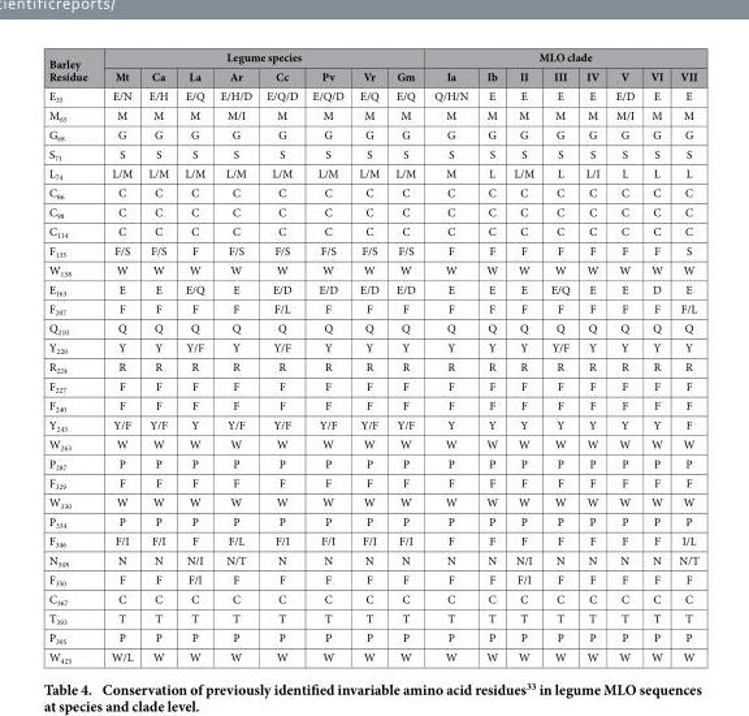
<table><thead><tr><td rowspan="2">Barley Residue</td><td colspan="8">Legume species</td><td colspan="8">MLO clade</td></tr><tr><td>Mt</td><td>Ca</td><td>La</td><td>Ar</td><td>Cc</td><td>Pv</td><td>Vr</td><td>Gm</td><td>Ia</td><td>Ib</td><td>II</td><td>III</td><td>IV</td><td>V</td><td>VI</td><td>VII</td></tr></thead><tbody><tr><td>E<sub>35</sub></td><td>E/N</td><td>E/H</td><td>E/Q</td><td>E/H/D</td><td>E/Q/D</td><td>E/Q/D</td><td>E/Q</td><td>E/Q</td><td>Q/H/N</td><td>E</td><td>E</td><td>E</td><td>E</td><td>E/D</td><td>E</td><td>E</td></tr><tr><td>M<sub>65</sub></td><td>M</td><td>M</td><td>M</td><td>M/I</td><td>M</td><td>M</td><td>M</td><td>M</td><td>M</td><td>M</td><td>M</td><td>M</td><td>M</td><td>M/I</td><td>M</td><td>M</td></tr><tr><td>G<sub>68</sub></td><td>G</td><td>G</td><td>G</td><td>G</td><td>G</td><td>G</td><td>G</td><td>G</td><td>G</td><td>G</td><td>G</td><td>G</td><td>G</td><td>G</td><td>G</td><td>G</td></tr><tr><td>S<sub>71</sub></td><td>S</td><td>S</td><td>S</td><td>S</td><td>S</td><td>S</td><td>S</td><td>S</td><td>S</td><td>S</td><td>S</td><td>S</td><td>S</td><td>S</td><td>S</td><td>S</td></tr><tr><td>L<sub>74</sub></td><td>L/M</td><td>L/M</td><td>L/M</td><td>L/M</td><td>L/M</td><td>L/M</td><td>L/M</td><td>L/M</td><td>M</td><td>L</td><td>L/M</td><td>L</td><td>L/I</td><td>L</td><td>L</td><td>L</td></tr><tr><td>C<sub>86</sub></td><td>C</td><td>C</td><td>C</td><td>C</td><td>C</td><td>C</td><td>C</td><td>C</td><td>C</td><td>C</td><td>C</td><td>C</td><td>C</td><td>C</td><td>C</td><td>C</td></tr><tr><td>C<sub>98</sub></td><td>C</td><td>C</td><td>C</td><td>C</td><td>C</td><td>C</td><td>C</td><td>C</td><td>C</td><td>C</td><td>C</td><td>C</td><td>C</td><td>C</td><td>C</td><td>C</td></tr><tr><td>C<sub>114</sub></td><td>C</td><td>C</td><td>C</td><td>C</td><td>C</td><td>C</td><td>C</td><td>C</td><td>C</td><td>C</td><td>C</td><td>C</td><td>C</td><td>C</td><td>C</td><td>C</td></tr><tr><td>F<sub>135</sub></td><td>F/S</td><td>F/S</td><td>F</td><td>F/S</td><td>F/S</td><td>F/S</td><td>F/S</td><td>F/S</td><td>F</td><td>F</td><td>F</td><td>F</td><td>F</td><td>F</td><td>F</td><td>S</td></tr><tr><td>W<sub>158</sub></td><td>W</td><td>W</td><td>W</td><td>W</td><td>W</td><td>W</td><td>W</td><td>W</td><td>W</td><td>W</td><td>W</td><td>W</td><td>W</td><td>W</td><td>W</td><td>W</td></tr><tr><td>E<sub>163</sub></td><td>E</td><td>E</td><td>E/Q</td><td>E</td><td>E/D</td><td>E/D</td><td>E/D</td><td>E/D</td><td>E</td><td>E</td><td>E</td><td>E/Q</td><td>E</td><td>E</td><td>D</td><td>E</td></tr><tr><td>F<sub>207</sub></td><td>F</td><td>F</td><td>F</td><td>F</td><td>F/L</td><td>F</td><td>F</td><td>F</td><td>F</td><td>F</td><td>F</td><td>F</td><td>F</td><td>F</td><td>F</td><td>F/L</td></tr><tr><td>Q<sub>210</sub></td><td>Q</td><td>Q</td><td>Q</td><td>Q</td><td>Q</td><td>Q</td><td>Q</td><td>Q</td><td>Q</td><td>Q</td><td>Q</td><td>Q</td><td>Q</td><td>Q</td><td>Q</td><td>Q</td></tr><tr><td>Y<sub>220</sub></td><td>Y</td><td>Y</td><td>Y/F</td><td>Y</td><td>Y/F</td><td>Y</td><td>Y</td><td>Y</td><td>Y</td><td>Y</td><td>Y</td><td>Y/F</td><td>Y</td><td>Y</td><td>Y</td><td>Y</td></tr><tr><td>R<sub>224</sub></td><td>R</td><td>R</td><td>R</td><td>R</td><td>R</td><td>R</td><td>R</td><td>R</td><td>R</td><td>R</td><td>R</td><td>R</td><td>R</td><td>R</td><td>R</td><td>R</td></tr><tr><td>F<sub>227</sub></td><td>F</td><td>F</td><td>F</td><td>F</td><td>F</td><td>F</td><td>F</td><td>F</td><td>F</td><td>F</td><td>F</td><td>F</td><td>F</td><td>F</td><td>F</td><td>F</td></tr><tr><td>F<sub>240</sub></td><td>F</td><td>F</td><td>F</td><td>F</td><td>F</td><td>F</td><td>F</td><td>F</td><td>F</td><td>F</td><td>F</td><td>F</td><td>F</td><td>F</td><td>F</td><td>F</td></tr><tr><td>Y<sub>243</sub></td><td>Y/F</td><td>Y/F</td><td>Y</td><td>Y/F</td><td>Y/F</td><td>Y/F</td><td>Y/F</td><td>Y/F</td><td>Y</td><td>Y</td><td>Y</td><td>Y</td><td>Y</td><td>Y</td><td>Y</td><td>F</td></tr><tr><td>W<sub>263</sub></td><td>W</td><td>W</td><td>W</td><td>W</td><td>W</td><td>W</td><td>W</td><td>W</td><td>W</td><td>W</td><td>W</td><td>W</td><td>W</td><td>W</td><td>W</td><td>W</td></tr><tr><td>P<sub>287</sub></td><td>P</td><td>P</td><td>P</td><td>P</td><td>P</td><td>P</td><td>P</td><td>P</td><td>P</td><td>P</td><td>P</td><td>P</td><td>P</td><td>P</td><td>P</td><td>P</td></tr><tr><td>F<sub>329</sub></td><td>F</td><td>F</td><td>F</td><td>F</td><td>F</td><td>F</td><td>F</td><td>F</td><td>F</td><td>F</td><td>F</td><td>F</td><td>F</td><td>F</td><td>F</td><td>F</td></tr><tr><td>W<sub>330</sub></td><td>W</td><td>W</td><td>W</td><td>W</td><td>W</td><td>W</td><td>W</td><td>W</td><td>W</td><td>W</td><td>W</td><td>W</td><td>W</td><td>W</td><td>W</td><td>W</td></tr><tr><td>P<sub>334</sub></td><td>P</td><td>P</td><td>P</td><td>P</td><td>P</td><td>P</td><td>P</td><td>P</td><td>P</td><td>P</td><td>P</td><td>P</td><td>P</td><td>P</td><td>P</td><td>P</td></tr><tr><td>F<sub>346</sub></td><td>F/I</td><td>F/I</td><td>F</td><td>F/L</td><td>F/I</td><td>F/I</td><td>F/I</td><td>F/I</td><td>F</td><td>F</td><td>F</td><td>F</td><td>F</td><td>F</td><td>F</td><td>I/L</td></tr><tr><td>N<sub>348</sub></td><td>N</td><td>N</td><td>N/I</td><td>N/T</td><td>N</td><td>N</td><td>N</td><td>N</td><td>N</td><td>N</td><td>N/I</td><td>N</td><td>N</td><td>N</td><td>N</td><td>N/T</td></tr><tr><td>F<sub>350</sub></td><td>F</td><td>F</td><td>F/I</td><td>F</td><td>F</td><td>F</td><td>F</td><td>F</td><td>F</td><td>F</td><td>F/I</td><td>F</td><td>F</td><td>F</td><td>F</td><td>F</td></tr><tr><td>C<sub>367</sub></td><td>C</td><td>C</td><td>C</td><td>C</td><td>C</td><td>C</td><td>C</td><td>C</td><td>C</td><td>C</td><td>C</td><td>C</td><td>C</td><td>C</td><td>C</td><td>C</td></tr><tr><td>T<sub>393</sub></td><td>T</td><td>T</td><td>T</td><td>T</td><td>T</td><td>T</td><td>T</td><td>T</td><td>T</td><td>T</td><td>T</td><td>T</td><td>T</td><td>T</td><td>T</td><td>T</td></tr><tr><td>P<sub>395</sub></td><td>P</td><td>P</td><td>P</td><td>P</td><td>P</td><td>P</td><td>P</td><td>P</td><td>P</td><td>P</td><td>P</td><td>P</td><td>P</td><td>P</td><td>P</td><td>P</td></tr><tr><td>W<sub>423</sub></td><td>W/L</td><td>W</td><td>W</td><td>W</td><td>W</td><td>W</td><td>W</td><td>W</td><td>W</td><td>W</td><td>W</td><td>W</td><td>W</td><td>W</td><td>W</td><td>W</td></tr></tbody></table>